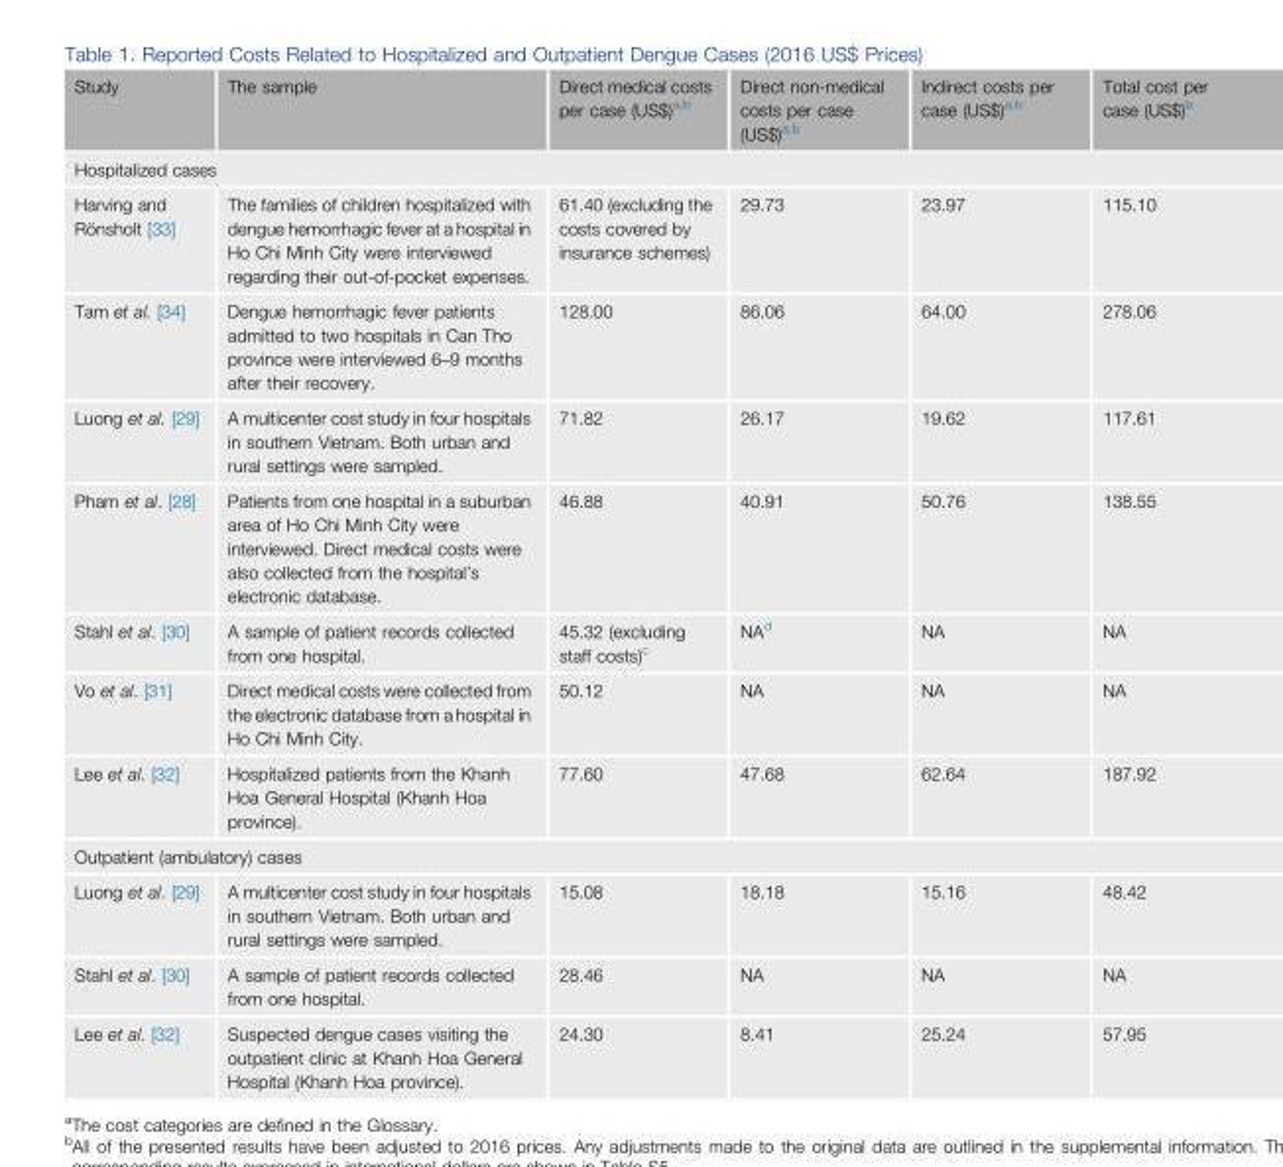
<table><thead><tr><td>Study</td><td>The sample</td><td>Direct medical costs per case (US$)<sup>a</sup>,<sup>b</sup></td><td>Direct non-medical costs per case (US$)<sup>a</sup>,<sup>b</sup></td><td>Indirect costs per case (US$)<sup>a</sup>,<sup>b</sup></td><td>Total cost per case (US$)<sup>b</sup></td></tr></thead><tbody><tr><td colspan="6">Hospitalized cases</td></tr><tr><td>Harving and Rönsholt [33]</td><td>The families of children hospitalized with dengue hemorrhagic fever at a hospital in Ho Chi Minh City were interviewed regarding their out-of-pocket expenses.</td><td>61.40 (excluding the costs covered by insurance schemes)</td><td>29.73</td><td>23.97</td><td>115.10</td></tr><tr><td>Tam et al. [34]</td><td>Dengue hemorrhagic fever patients admitted to two hospitals in Can Tho province were interviewed 6–9 months after their recovery.</td><td>128.00</td><td>86.06</td><td>64.00</td><td>278.06</td></tr><tr><td>Luong et al. [29]</td><td>A multicenter cost study in four hospitals in southern Vietnam. Both urban and rural settings were sampled.</td><td>71.82</td><td>26.17</td><td>19.62</td><td>117.61</td></tr><tr><td>Pham et al. [28]</td><td>Patients from one hospital in a suburban area of Ho Chi Minh City were interviewed. Direct medical costs were also collected from the hospital’s electronic database.</td><td>46.88</td><td>40.91</td><td>50.76</td><td>138.55</td></tr><tr><td>Stahl et al. [30]</td><td>A sample of patient records collected from one hospital.</td><td>45.32 (excluding staff costs)<sup>c</sup></td><td>NA<sup>d</sup></td><td>NA</td><td>NA</td></tr><tr><td>Vo et al. [31]</td><td>Direct medical costs were collected from the electronic database from a hospital in Ho Chi Minh City.</td><td>50.12</td><td>NA</td><td>NA</td><td>NA</td></tr><tr><td>Lee et al. [32]</td><td>Hospitalized patients from the Khanh Hoa General Hospital (Khanh Hoa province).</td><td>77.60</td><td>47.68</td><td>62.64</td><td>187.92</td></tr><tr><td colspan="6">Outpatient (ambulatory) cases</td></tr><tr><td>Luong et al. [29]</td><td>A multicenter cost study in four hospitals in southern Vietnam. Both urban and rural settings were sampled.</td><td>15.08</td><td>18.18</td><td>15.16</td><td>48.42</td></tr><tr><td>Stahl et al. [30]</td><td>A sample of patient records collected from one hospital.</td><td>28.46</td><td>NA</td><td>NA</td><td>NA</td></tr><tr><td>Lee et al. [32]</td><td>Suspected dengue cases visiting the outpatient clinic at Khanh Hoa General Hospital (Khanh Hoa province).</td><td>24.30</td><td>8.41</td><td>25.24</td><td>57.95</td></tr></tbody></table>